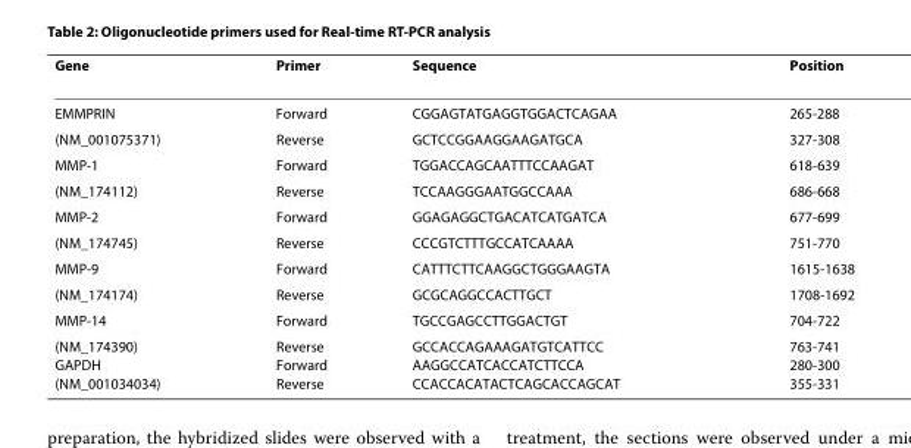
<table><thead><tr><td>Gene</td><td>Primer</td><td>Sequence</td><td>Position</td></tr></thead><tbody><tr><td>EMMPRIN</td><td>Forward</td><td>CGGAGTATGAGGTGGACTCAGAA</td><td>265-288</td></tr><tr><td>(NM_001075371)</td><td>Reverse</td><td>GCTCCGGAAGGAAGATGCA</td><td>327-308</td></tr><tr><td>MMP-1</td><td>Forward</td><td>TGGACCAGCAATTTCCAAGAT</td><td>618-639</td></tr><tr><td>(NM_174112)</td><td>Reverse</td><td>TCCAAGGGAATGGCCAAA</td><td>686-668</td></tr><tr><td>MMP-2</td><td>Forward</td><td>GGAGAGGCTGACATCATGATCA</td><td>677-699</td></tr><tr><td>(NM_174745)</td><td>Reverse</td><td>CCCGTCTTTGCCATCAAAA</td><td>751-770</td></tr><tr><td>MMP-9</td><td>Forward</td><td>CATTTCTTCAAGGCTGGGAAGTA</td><td>1615-1638</td></tr><tr><td>(NM_174174)</td><td>Reverse</td><td>GCGCAGGCCACTTGCT</td><td>1708-1692</td></tr><tr><td>MMP-14</td><td>Forward</td><td>TGCCGAGCCTTGGACTGT</td><td>704-722</td></tr><tr><td>(NM_174390) GAPDH (NM_001034034)</td><td>Reverse Forward Reverse</td><td>GCCACCAGAAAGATGTCATTCC AAGGCCATCACCATCTTCCA CCACCACATACTCAGCACCAGCAT</td><td>763-741 280-300 355-331</td></tr></tbody></table>